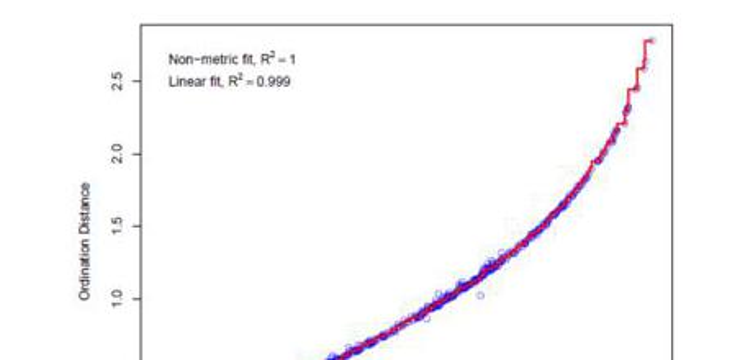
<table><thead><tr><td>Variables</td><td>r<sup>2</sup></td><td>p</td></tr></thead><tbody><tr><td>Number of users</td><td>0.1689</td><td>0.04895 *</td></tr><tr><td>Heating type</td><td>0.1814</td><td>0.09091</td></tr><tr><td>Windows opening during cleaning activities</td><td>0.1555</td><td>0.01798 *</td></tr><tr><td>Floor of the apartments</td><td>0.2741</td><td>0.06397</td></tr><tr><td>Attached garage</td><td>0.2148</td><td>0.05195 .</td></tr><tr><td>Temperature</td><td>0.1614</td><td>0.04496 *</td></tr><tr><td>Relative humidity</td><td>0.2088</td><td>0.01698 *</td></tr><tr><td>PM<sub>0.5</sub></td><td>0.1544</td><td>0.07493</td></tr><tr><td>PM<sub>1</sub></td><td>0.1595</td><td>0.06893</td></tr></tbody></table>